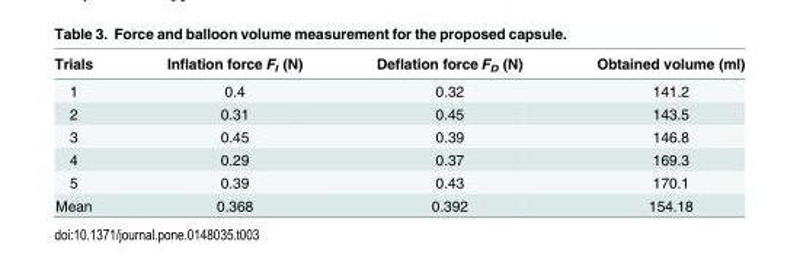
<table><thead><tr><td>Trials</td><td>Inflation force F<sub>I</sub> (N)</td><td>Deflation force F<sub>D</sub> (N)</td><td>Obtained volume (ml)</td></tr></thead><tbody><tr><td>1</td><td>0.4</td><td>0.32</td><td>141.2</td></tr><tr><td>2</td><td>0.31</td><td>0.45</td><td>143.5</td></tr><tr><td>3</td><td>0.45</td><td>0.39</td><td>146.8</td></tr><tr><td>4</td><td>0.29</td><td>0.37</td><td>169.3</td></tr><tr><td>5</td><td>0.39</td><td>0.43</td><td>170.1</td></tr><tr><td>Mean</td><td>0.368</td><td>0.392</td><td>154.18</td></tr></tbody></table>